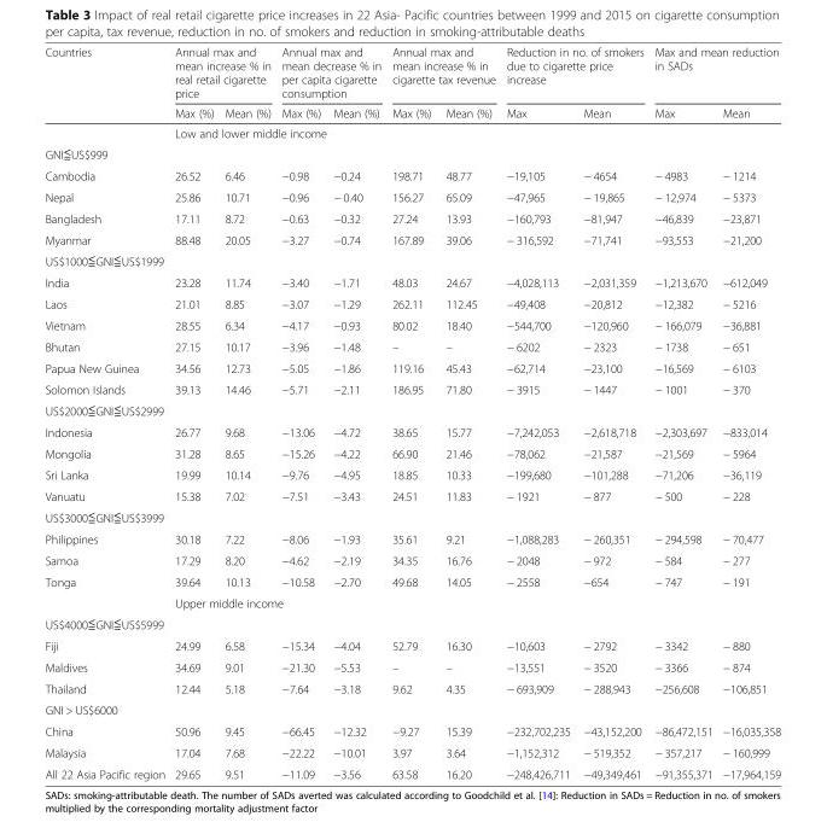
<table><thead><tr><td rowspan="2">Countries</td><td colspan="2">Annual max and mean increase % in real retail cigarette price</td><td colspan="2">Annual max and mean decrease % in per capita cigarette consumption</td><td colspan="2">Annual max and mean increase % in cigarette tax revenue</td><td colspan="2">Reduction in no. of smokers due to cigarette price increase</td><td colspan="2">Max and mean reduction in SADs</td></tr><tr><td>Max (%)</td><td>Mean (%)</td><td>Max (%)</td><td>Mean (%)</td><td>Max (%)</td><td>Mean (%)</td><td>Max</td><td>Mean</td><td>Max</td><td>Mean</td></tr></thead><tbody><tr><td></td><td colspan="10">Low and lower middle income</td></tr><tr><td colspan="11">GNI≦US$999</td></tr><tr><td>Cambodia</td><td>26.52</td><td>6.46</td><td>−0.98</td><td>−0.24</td><td>198.71</td><td>48.77</td><td>−19,105</td><td>− 4654</td><td>− 4983</td><td>− 1214</td></tr><tr><td>Nepal</td><td>25.86</td><td>10.71</td><td>−0.96</td><td>− 0.40</td><td>156.27</td><td>65.09</td><td>−47,965</td><td>− 19,865</td><td>− 12,974</td><td>− 5373</td></tr><tr><td>Bangladesh</td><td>17.11</td><td>8.72</td><td>−0.63</td><td>−0.32</td><td>27.24</td><td>13.93</td><td>−160,793</td><td>−81,947</td><td>−46,839</td><td>−23,871</td></tr><tr><td>Myanmar</td><td>88.48</td><td>20.05</td><td>−3.27</td><td>−0.74</td><td>167.89</td><td>39.06</td><td>− 316,592</td><td>−71,741</td><td>−93,553</td><td>−21,200</td></tr><tr><td colspan="11">US$1000≦GNI≦US$1999</td></tr><tr><td>India</td><td>23.28</td><td>11.74</td><td>−3.40</td><td>−1.71</td><td>48.03</td><td>24.67</td><td>−4,028,113</td><td>−2,031,359</td><td>−1,213,670</td><td>−612,049</td></tr><tr><td>Laos</td><td>21.01</td><td>8.85</td><td>−3.07</td><td>−1.29</td><td>262.11</td><td>112.45</td><td>−49,408</td><td>−20,812</td><td>−12,382</td><td>− 5216</td></tr><tr><td>Vietnam</td><td>28.55</td><td>6.34</td><td>−4.17</td><td>−0.93</td><td>80.02</td><td>18.40</td><td>−544,700</td><td>−120,960</td><td>− 166,079</td><td>−36,881</td></tr><tr><td>Bhutan</td><td>27.15</td><td>10.17</td><td>−3.96</td><td>−1.48</td><td>–</td><td>–</td><td>− 6202</td><td>− 2323</td><td>− 1738</td><td>− 651</td></tr><tr><td>Papua New Guinea</td><td>34.56</td><td>12.73</td><td>−5.05</td><td>−1.86</td><td>119.16</td><td>45.43</td><td>−62,714</td><td>−23,100</td><td>−16,569</td><td>− 6103</td></tr><tr><td>Solomon Islands</td><td>39.13</td><td>14.46</td><td>−5.71</td><td>−2.11</td><td>186.95</td><td>71.80</td><td>− 3915</td><td>− 1447</td><td>− 1001</td><td>− 370</td></tr><tr><td colspan="11">US$2000≦GNI≦US$2999</td></tr><tr><td>Indonesia</td><td>26.77</td><td>9.68</td><td>−13.06</td><td>−4.72</td><td>38.65</td><td>15.77</td><td>−7,242,053</td><td>−2,618,718</td><td>−2,303,697</td><td>−833,014</td></tr><tr><td>Mongolia</td><td>31.28</td><td>8.65</td><td>−15.26</td><td>−4.22</td><td>66.90</td><td>21.46</td><td>−78,062</td><td>−21,587</td><td>−21,569</td><td>− 5964</td></tr><tr><td>Sri Lanka</td><td>19.99</td><td>10.14</td><td>−9.76</td><td>−4.95</td><td>18.85</td><td>10.33</td><td>−199,680</td><td>−101,288</td><td>−71,206</td><td>−36,119</td></tr><tr><td>Vanuatu</td><td>15.38</td><td>7.02</td><td>−7.51</td><td>−3.43</td><td>24.51</td><td>11.83</td><td>− 1921</td><td>− 877</td><td>− 500</td><td>− 228</td></tr><tr><td colspan="11">US$3000≦GNI≦US$3999</td></tr><tr><td>Philippines</td><td>30.18</td><td>7.22</td><td>−8.06</td><td>−1.93</td><td>35.61</td><td>9.21</td><td>−1,088,283</td><td>− 260,351</td><td>− 294,598</td><td>− 70,477</td></tr><tr><td>Samoa</td><td>17.29</td><td>8.20</td><td>−4.62</td><td>−2.19</td><td>34.35</td><td>16.76</td><td>− 2048</td><td>− 972</td><td>− 584</td><td>− 277</td></tr><tr><td rowspan="2">Tonga</td><td>39.64</td><td>10.13</td><td>−10.58</td><td>−2.70</td><td>49.68</td><td>14.05</td><td>− 2558</td><td>−654</td><td>− 747</td><td>− 191</td></tr><tr><td colspan="10">Upper middle income</td></tr><tr><td colspan="11">US$4000≦GNI≦US$5999</td></tr><tr><td>Fiji</td><td>24.99</td><td>6.58</td><td>−15.34</td><td>−4.04</td><td>52.79</td><td>16.30</td><td>−10,603</td><td>− 2792</td><td>− 3342</td><td>− 880</td></tr><tr><td>Maldives</td><td>34.69</td><td>9.01</td><td>−21.30</td><td>−5.53</td><td>–</td><td>–</td><td>−13,551</td><td>− 3520</td><td>− 3366</td><td>− 874</td></tr><tr><td>Thailand</td><td>12.44</td><td>5.18</td><td>−7.64</td><td>−3.18</td><td>9.62</td><td>4.35</td><td>− 693,909</td><td>− 288,943</td><td>−256,608</td><td>−106,851</td></tr><tr><td colspan="11">GNI &gt; US$6000</td></tr><tr><td>China</td><td>50.96</td><td>9.45</td><td>−66.45</td><td>−12.32</td><td>−9.27</td><td>15.39</td><td>−232,702,235</td><td>−43,152,200</td><td>−86,472,151</td><td>−16,035,358</td></tr><tr><td>Malaysia</td><td>17.04</td><td>7.68</td><td>−22.22</td><td>−10.01</td><td>3.97</td><td>3.64</td><td>−1,152,312</td><td>− 519,352</td><td>− 357,217</td><td>− 160,999</td></tr><tr><td>All 22 Asia Pacific region</td><td>29.65</td><td>9.51</td><td>−11.09</td><td>−3.56</td><td>63.58</td><td>16.20</td><td>−248,426,711</td><td>−49,349,461</td><td>−91,355,371</td><td>−17,964,159</td></tr></tbody></table>